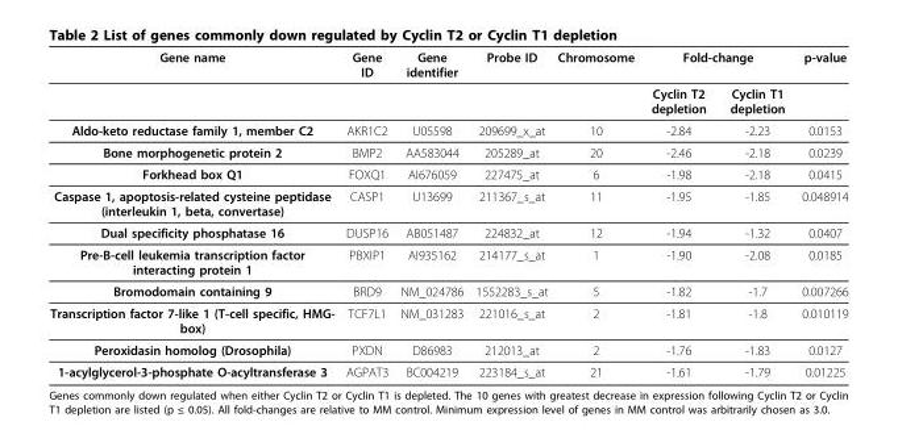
<table><thead><tr><td rowspan="2">Gene name</td><td rowspan="2">Gene ID</td><td rowspan="2">Gene identifier</td><td rowspan="2">Probe ID</td><td rowspan="2">Chromosome</td><td colspan="2">Fold-change</td><td rowspan="2">p-value</td></tr><tr><td>Cyclin T2 depletion</td><td>Cyclin T1 depletion</td></tr></thead><tbody><tr><td>Aldo-keto reductase family 1, member C2</td><td>AKR1C2</td><td>U05598</td><td>209699_x_at</td><td>10</td><td>-2.84</td><td>-2.23</td><td>0.0153</td></tr><tr><td>Bone morphogenetic protein 2</td><td>BMP2</td><td>AA583044</td><td>205289_at</td><td>20</td><td>-2.46</td><td>-2.18</td><td>0.0239</td></tr><tr><td>Forkhead box Q1</td><td>FOXQ1</td><td>AI676059</td><td>227475_at</td><td>6</td><td>-1.98</td><td>-2.18</td><td>0.0415</td></tr><tr><td>Caspase 1, apoptosis-related cysteine peptidase (interleukin 1, beta, convertase)</td><td>CASP1</td><td>U13699</td><td>211367_s_at</td><td>11</td><td>-1.95</td><td>-1.85</td><td>0.048914</td></tr><tr><td>Dual specificity phosphatase 16</td><td>DUSP16</td><td>AB051487</td><td>224832_at</td><td>12</td><td>-1.94</td><td>-1.32</td><td>0.0407</td></tr><tr><td>Pre-B-cell leukemia transcription factor interacting protein 1</td><td>PBXIP1</td><td>AI935162</td><td>214177_s_at</td><td>1</td><td>-1.90</td><td>-2.08</td><td>0.0185</td></tr><tr><td>Bromodomain containing 9</td><td>BRD9</td><td>NM_024786</td><td>1552283_s_at</td><td>5</td><td>-1.82</td><td>-1.7</td><td>0.007266</td></tr><tr><td>Transcription factor 7-like 1 (T-cell specific, HMG- box)</td><td>TCF7L1</td><td>NM_031283</td><td>221016_s_at</td><td>2</td><td>-1.81</td><td>-1.8</td><td>0.010119</td></tr><tr><td>Peroxidasin homolog (Drosophila)</td><td>PXDN</td><td>D86983</td><td>212013_at</td><td>2</td><td>-1.76</td><td>-1.83</td><td>0.0127</td></tr><tr><td>1-acylglycerol-3-phosphate O-acyltransferase 3</td><td>AGPAT3</td><td>BC004219</td><td>223184_s_at</td><td>21</td><td>-1.61</td><td>-1.79</td><td>0.01225</td></tr></tbody></table>